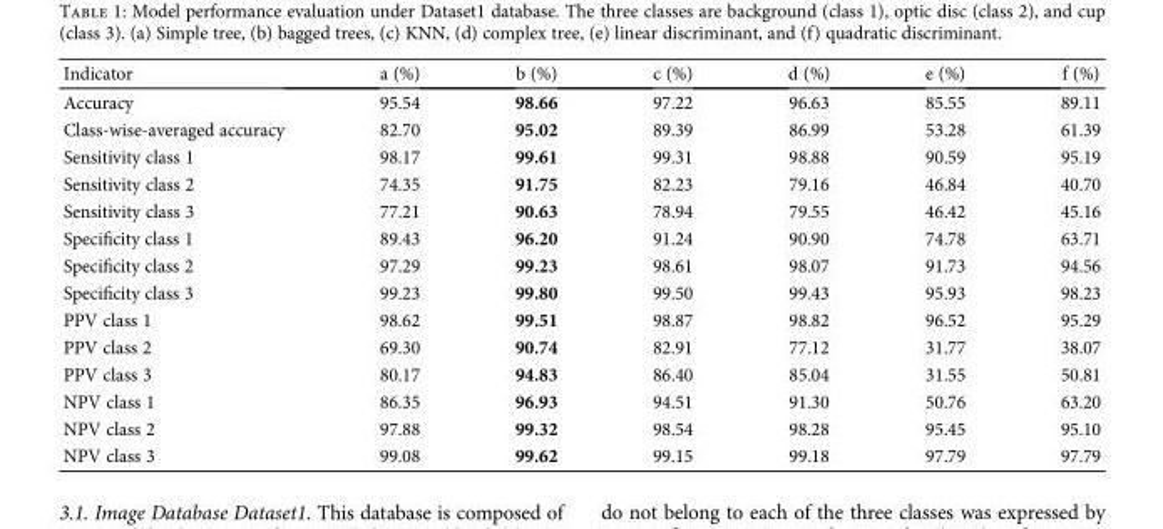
<table><thead><tr><td>Indicator</td><td>a (%)</td><td>b (%)</td><td>c (%)</td><td>d (%)</td><td>e (%)</td><td>f (%)</td></tr></thead><tbody><tr><td>Accuracy</td><td>95.54</td><td>98.66</td><td>97.22</td><td>96.63</td><td>85.55</td><td>89.11</td></tr><tr><td>Class-wise-averaged accuracy</td><td>82.70</td><td>95.02</td><td>89.39</td><td>86.99</td><td>53.28</td><td>61.39</td></tr><tr><td>Sensitivity class 1</td><td>98.17</td><td>99.61</td><td>99.31</td><td>98.88</td><td>90.59</td><td>95.19</td></tr><tr><td>Sensitivity class 2</td><td>74.35</td><td>91.75</td><td>82.23</td><td>79.16</td><td>46.84</td><td>40.70</td></tr><tr><td>Sensitivity class 3</td><td>77.21</td><td>90.63</td><td>78.94</td><td>79.55</td><td>46.42</td><td>45.16</td></tr><tr><td>Specificity class 1</td><td>89.43</td><td>96.20</td><td>91.24</td><td>90.90</td><td>74.78</td><td>63.71</td></tr><tr><td>Specificity class 2</td><td>97.29</td><td>99.23</td><td>98.61</td><td>98.07</td><td>91.73</td><td>94.56</td></tr><tr><td>Specificity class 3</td><td>99.23</td><td>99.80</td><td>99.50</td><td>99.43</td><td>95.93</td><td>98.23</td></tr><tr><td>PPV class 1</td><td>98.62</td><td>99.51</td><td>98.87</td><td>98.82</td><td>96.52</td><td>95.29</td></tr><tr><td>PPV class 2</td><td>69.30</td><td>90.74</td><td>82.91</td><td>77.12</td><td>31.77</td><td>38.07</td></tr><tr><td>PPV class 3</td><td>80.17</td><td>94.83</td><td>86.40</td><td>85.04</td><td>31.55</td><td>50.81</td></tr><tr><td>NPV class 1</td><td>86.35</td><td>96.93</td><td>94.51</td><td>91.30</td><td>50.76</td><td>63.20</td></tr><tr><td>NPV class 2</td><td>97.88</td><td>99.32</td><td>98.54</td><td>98.28</td><td>95.45</td><td>95.10</td></tr><tr><td>NPV class 3</td><td>99.08</td><td>99.62</td><td>99.15</td><td>99.18</td><td>97.79</td><td>97.79</td></tr></tbody></table>